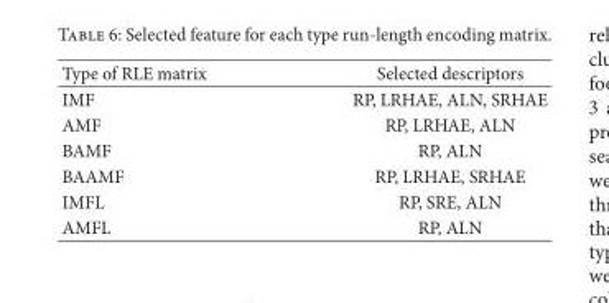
<table><thead><tr><td>Type of RLE matrix</td><td>Selected descriptors</td></tr></thead><tbody><tr><td>IMF</td><td>RP, LRHAE, ALN, SRHAE</td></tr><tr><td>AMF</td><td>RP, LRHAE, ALN</td></tr><tr><td>BAMF</td><td>RP, ALN</td></tr><tr><td>BAAMF</td><td>RP, LRHAE, SRHAE</td></tr><tr><td>IMFL</td><td>RP, SRE, ALN</td></tr><tr><td>AMFL</td><td>RP, ALN</td></tr></tbody></table>